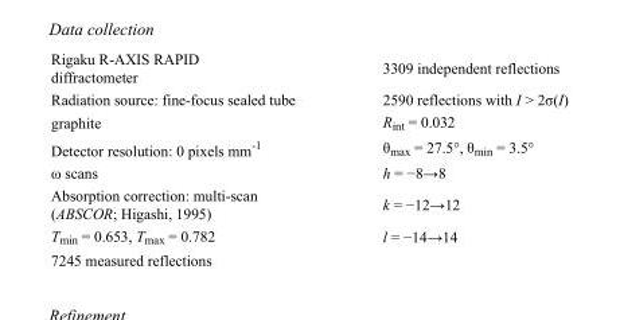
<table><tbody><tr><td>Rigaku R-AXIS RAPID diffractometer</td><td>3309 independent reflections</td></tr><tr><td>Radiation source: fine-focus sealed tube</td><td>2590 reflections with I &gt; 2σ(I)</td></tr><tr><td>graphite</td><td>R<sub>int</sub> = 0.032</td></tr><tr><td>Detector resolution: 0 pixels mm<sup>-1</sup></td><td>θ<sub>max</sub> = 27.5°, θ<sub>min</sub> = 3.5°</td></tr><tr><td>ω scans</td><td>h = −8→8</td></tr><tr><td>Absorption correction: multi-scan (ABSCOR; Higashi, 1995)</td><td>k = −12→12</td></tr><tr><td>T<sub>min</sub> = 0.653, T<sub>max</sub> = 0.782</td><td>l = −14→14</td></tr><tr><td>7245 measured reflections</td><td></td></tr></tbody></table>